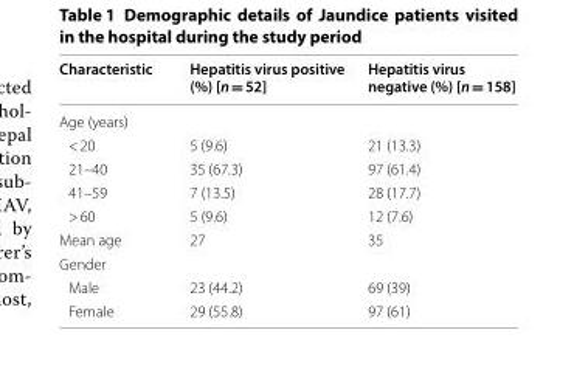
<table><thead><tr><td>Characteristic</td><td>Hepatitis virus positive (%) [n = 52]</td><td>Hepatitis virus negative (%) [n = 158]</td></tr></thead><tbody><tr><td colspan="3">Age (years)</td></tr><tr><td>&lt; 20</td><td>5 (9.6)</td><td>21 (13.3)</td></tr><tr><td>21–40</td><td>35 (67.3)</td><td>97 (61.4)</td></tr><tr><td>41–59</td><td>7 (13.5)</td><td>28 (17.7)</td></tr><tr><td>&gt; 60</td><td>5 (9.6)</td><td>12 (7.6)</td></tr><tr><td>Mean age</td><td>27</td><td>35</td></tr><tr><td colspan="3">Gender</td></tr><tr><td>Male</td><td>23 (44.2)</td><td>69 (39)</td></tr><tr><td>Female</td><td>29 (55.8)</td><td>97 (61)</td></tr></tbody></table>